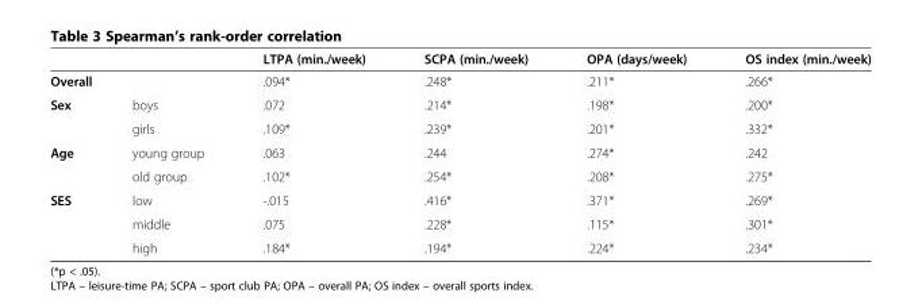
<table><thead><tr><td></td><td></td><td>LTPA (min./week)</td><td>SCPA (min./week)</td><td>OPA (days/week)</td><td>OS index (min./week)</td></tr></thead><tbody><tr><td colspan="2">Overall</td><td>.094*</td><td>.248*</td><td>.211*</td><td>.266*</td></tr><tr><td rowspan="2">Sex</td><td>boys</td><td>.072</td><td>.214*</td><td>.198*</td><td>.200*</td></tr><tr><td>girls</td><td>.109*</td><td>.239*</td><td>.201*</td><td>.332*</td></tr><tr><td rowspan="2">Age</td><td>young group</td><td>.063</td><td>.244</td><td>.274*</td><td>.242</td></tr><tr><td>old group</td><td>.102*</td><td>.254*</td><td>.208*</td><td>.275*</td></tr><tr><td rowspan="3">SES</td><td>low</td><td>-.015</td><td>.416*</td><td>.371*</td><td>.269*</td></tr><tr><td>middle</td><td>.075</td><td>.228*</td><td>.115*</td><td>.301*</td></tr><tr><td>high</td><td>.184*</td><td>.194*</td><td>.224*</td><td>.234*</td></tr></tbody></table>